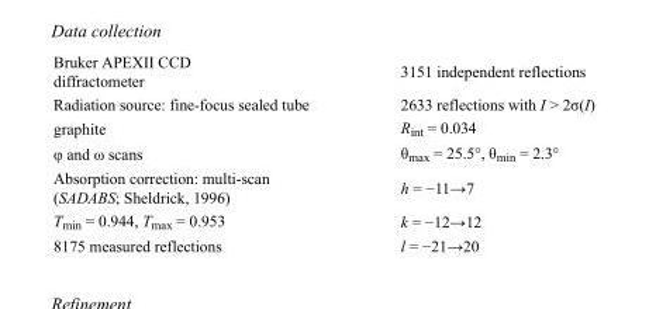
<table><tbody><tr><td>Bruker APEXII CCD diffractometer</td><td>3151 independent reflections</td></tr><tr><td>Radiation source: fine-focus sealed tube</td><td>2633 reflections with I &gt; 2σ(I)</td></tr><tr><td>graphite</td><td>R<sub>int</sub> = 0.034</td></tr><tr><td>φ and ω scans</td><td>θ<sub>max</sub> = 25.5°, θ<sub>min</sub> = 2.3°</td></tr><tr><td>Absorption correction: multi-scan (SADABS; Sheldrick, 1996)</td><td>h = −11→7</td></tr><tr><td>T<sub>min</sub> = 0.944, T<sub>max</sub> = 0.953</td><td>k = −12→12</td></tr><tr><td>8175 measured reflections</td><td>l = −21→20</td></tr></tbody></table>